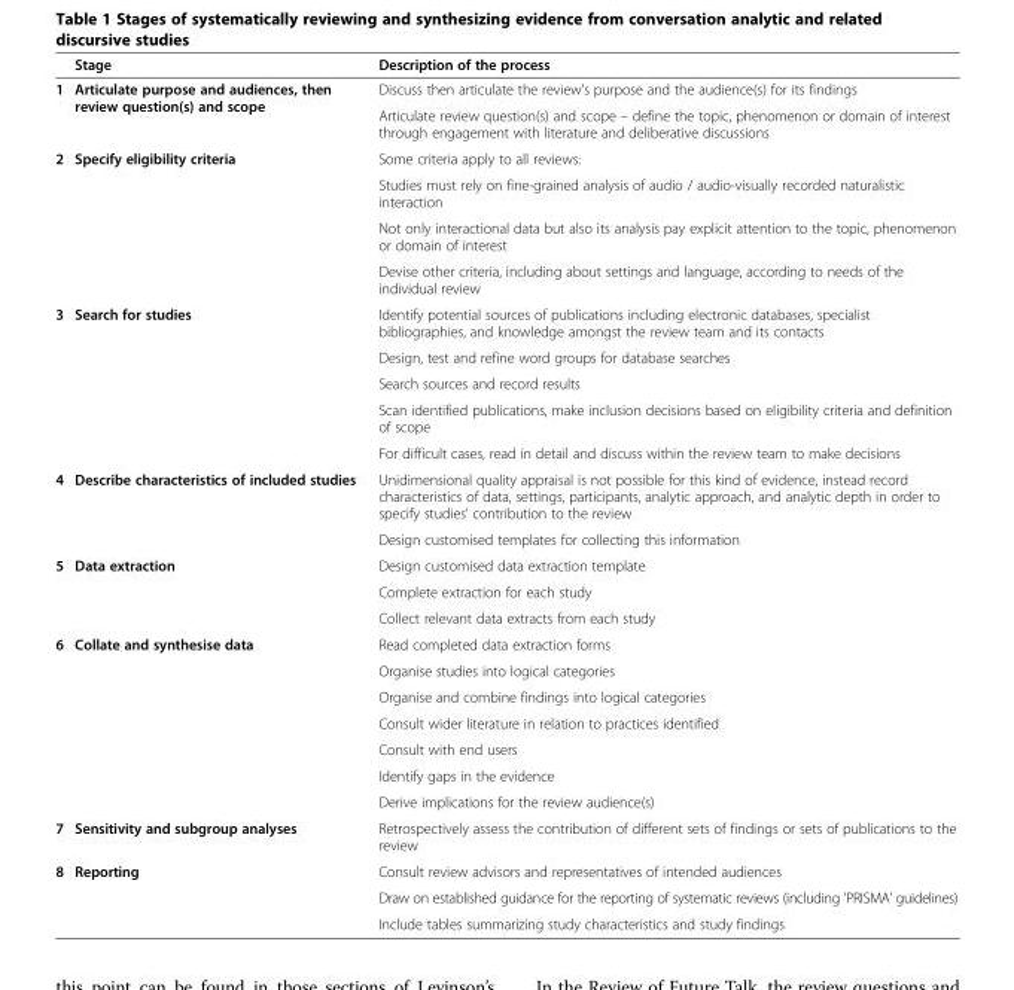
<table><thead><tr><td></td><td>Stage</td><td>Description of the process</td></tr></thead><tbody><tr><td rowspan="2">1</td><td rowspan="2">Articulate purpose and audiences, then review question(s) and scope</td><td>Discuss then articulate the review’s purpose and the audience(s) for its findings</td></tr><tr><td>Articulate review question(s) and scope – define the topic, phenomenon or domain of interest through engagement with literature and deliberative discussions</td></tr><tr><td rowspan="4">2</td><td rowspan="4">Specify eligibility criteria</td><td>Some criteria apply to all reviews:</td></tr><tr><td>Studies must rely on fine-grained analysis of audio / audio-visually recorded naturalistic interaction</td></tr><tr><td>Not only interactional data but also its analysis pay explicit attention to the topic, phenomenon or domain of interest</td></tr><tr><td>Devise other criteria, including about settings and language, according to needs of the individual review</td></tr><tr><td rowspan="5">3</td><td rowspan="5">Search for studies</td><td>Identify potential sources of publications including electronic databases, specialist bibliographies, and knowledge amongst the review team and its contacts</td></tr><tr><td>Design, test and refine word groups for database searches</td></tr><tr><td>Search sources and record results</td></tr><tr><td>Scan identified publications, make inclusion decisions based on eligibility criteria and definition of scope</td></tr><tr><td>For difficult cases, read in detail and discuss within the review team to make decisions</td></tr><tr><td rowspan="2">4</td><td rowspan="2">Describe characteristics of included studies</td><td>Unidimensional quality appraisal is not possible for this kind of evidence, instead record characteristics of data, settings, participants, analytic approach, and analytic depth in order to specify studies’ contribution to the review</td></tr><tr><td>Design customised templates for collecting this information</td></tr><tr><td rowspan="3">5</td><td rowspan="3">Data extraction</td><td>Design customised data extraction template</td></tr><tr><td>Complete extraction for each study</td></tr><tr><td>Collect relevant data extracts from each study</td></tr><tr><td rowspan="7">6</td><td rowspan="7">Collate and synthesise data</td><td>Read completed data extraction forms</td></tr><tr><td>Organise studies into logical categories</td></tr><tr><td>Organise and combine findings into logical categories</td></tr><tr><td>Consult wider literature in relation to practices identified</td></tr><tr><td>Consult with end users</td></tr><tr><td>Identify gaps in the evidence</td></tr><tr><td>Derive implications for the review audience(s)</td></tr><tr><td>7</td><td>Sensitivity and subgroup analyses</td><td>Retrospectively assess the contribution of different sets of findings or sets of publications to the review</td></tr><tr><td rowspan="3">8</td><td rowspan="3">Reporting</td><td>Consult review advisors and representatives of intended audiences</td></tr><tr><td>Draw on established guidance for the reporting of systematic reviews (including &#x27;PRISMA&#x27; guidelines)</td></tr><tr><td>Include tables summarizing study characteristics and study findings</td></tr></tbody></table>